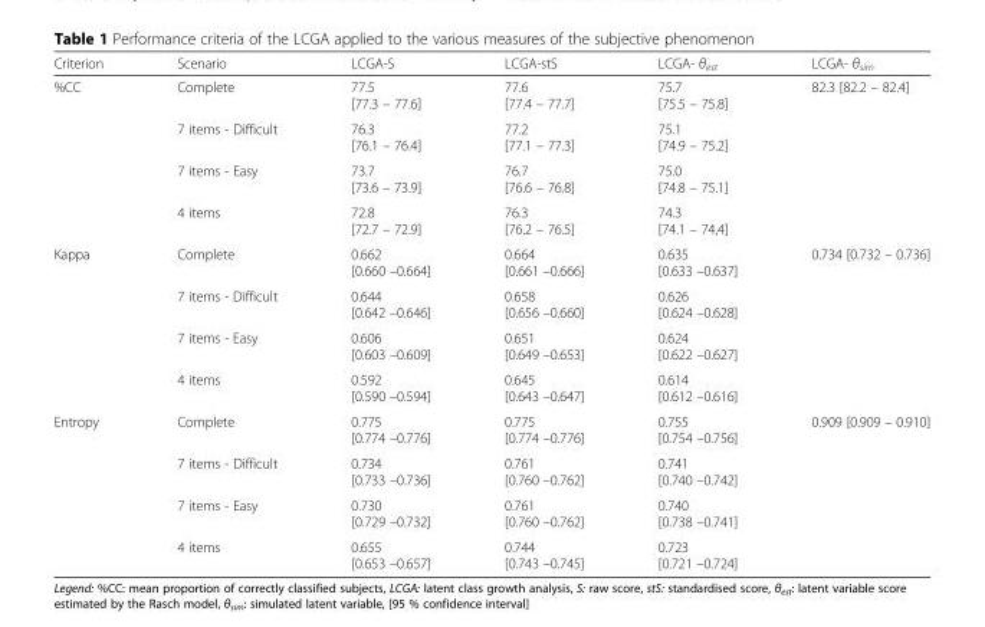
<table><thead><tr><td>Criterion</td><td>Scenario</td><td>LCGA-S</td><td>LCGA-stS</td><td>LCGA- θ<sub>est</sub></td><td>LCGA- θ<sub>sim</sub></td></tr></thead><tbody><tr><td rowspan="4">%CC</td><td>Complete</td><td>77.5 [77.3 – 77.6]</td><td>77.6 [77.4 – 77.7]</td><td>75.7 [75.5 – 75.8]</td><td rowspan="4">82.3 [82.2 – 82.4]</td></tr><tr><td>7 items - Difficult</td><td>76.3 [76.1 – 76.4]</td><td>77.2 [77.1 – 77.3]</td><td>75.1 [74.9 – 75.2]</td></tr><tr><td>7 items - Easy</td><td>73.7 [73.6 – 73.9]</td><td>76.7 [76.6 – 76.8]</td><td>75.0 [74.8 – 75.1]</td></tr><tr><td>4 items</td><td>72.8 [72.7 – 72.9]</td><td>76.3 [76.2 – 76.5]</td><td>74.3 [74.1 – 74,4]</td></tr><tr><td rowspan="4">Kappa</td><td>Complete</td><td>0.662 [0.660 –0.664]</td><td>0.664 [0.661 –0.666]</td><td>0.635 [0.633 –0.637]</td><td rowspan="4">0.734 [0.732 – 0.736]</td></tr><tr><td>7 items - Difficult</td><td>0.644 [0.642 –0.646]</td><td>0.658 [0.656 –0.660]</td><td>0.626 [0.624 –0.628]</td></tr><tr><td>7 items - Easy</td><td>0.606 [0.603 –0.609]</td><td>0.651 [0.649 –0.653]</td><td>0.624 [0.622 –0.627]</td></tr><tr><td>4 items</td><td>0.592 [0.590 –0.594]</td><td>0.645 [0.643 –0.647]</td><td>0.614 [0.612 –0.616]</td></tr><tr><td rowspan="4">Entropy</td><td>Complete</td><td>0.775 [0.774 –0.776]</td><td>0.775 [0.774 –0.776]</td><td>0.755 [0.754 –0.756]</td><td rowspan="4">0.909 [0.909 – 0.910]</td></tr><tr><td>7 items - Difficult</td><td>0.734 [0.733 –0.736]</td><td>0.761 [0.760 –0.762]</td><td>0.741 [0.740 –0.742]</td></tr><tr><td>7 items - Easy</td><td>0.730 [0.729 –0.732]</td><td>0.761 [0.760 –0.762]</td><td>0.740 [0.738 –0.741]</td></tr><tr><td>4 items</td><td>0.655 [0.653 –0.657]</td><td>0.744 [0.743 –0.745]</td><td>0.723 [0.721 –0.724]</td></tr></tbody></table>